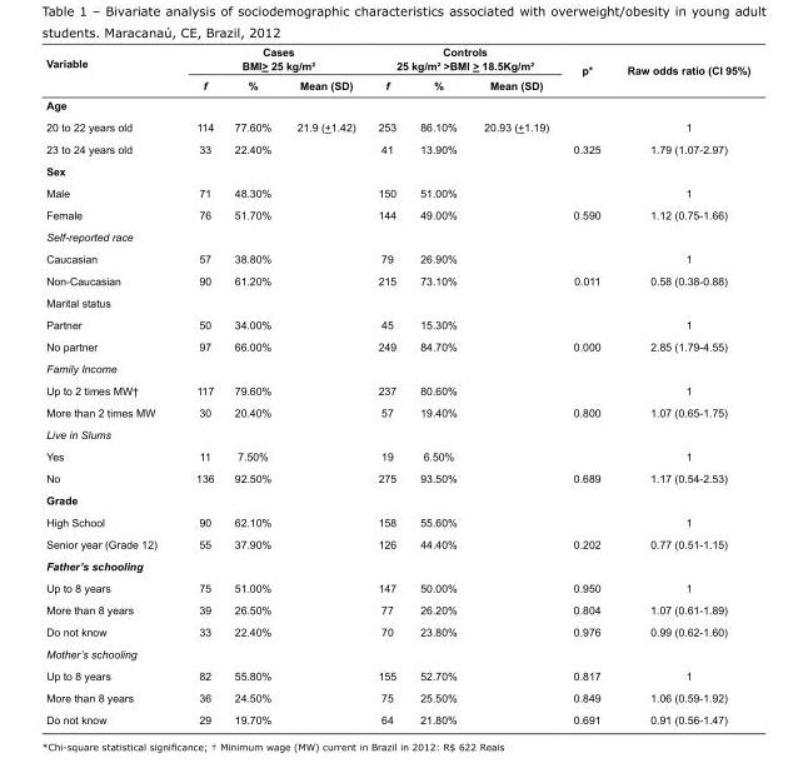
<table><thead><tr><td rowspan="2">Variable</td><td colspan="3">Cases BMI&gt; 25 kg/m²</td><td colspan="3">Controls 25 kg/m² &gt;BMI &gt; 18.5Kg/m²</td><td rowspan="2">p*</td><td rowspan="2">Raw odds ratio (CI 95%)</td></tr><tr><td>f</td><td>%</td><td>Mean (SD)</td><td>f</td><td>%</td><td>Mean (SD)</td></tr></thead><tbody><tr><td colspan="9">Age</td></tr><tr><td>20 to 22 years old</td><td>114</td><td>77.60%</td><td rowspan="2">21.9 (+1.42)</td><td>253</td><td>86.10%</td><td rowspan="2">20.93 (+1.19)</td><td></td><td>1</td></tr><tr><td>23 to 24 years old</td><td>33</td><td>22.40%</td><td>41</td><td>13.90%</td><td>0.325</td><td>1.79 (1.07-2.97)</td></tr><tr><td colspan="9">Sex</td></tr><tr><td>Male</td><td>71</td><td>48.30%</td><td></td><td>150</td><td>51.00%</td><td></td><td></td><td>1</td></tr><tr><td>Female</td><td>76</td><td>51.70%</td><td></td><td>144</td><td>49.00%</td><td></td><td>0.590</td><td>1.12 (0.75-1.66)</td></tr><tr><td colspan="9">Self-reported race</td></tr><tr><td>Caucasian</td><td>57</td><td>38.80%</td><td></td><td>79</td><td>26.90%</td><td></td><td></td><td>1</td></tr><tr><td>Non-Caucasian</td><td>90</td><td>61.20%</td><td></td><td>215</td><td>73.10%</td><td></td><td>0.011</td><td>0.58 (0.38-0.88)</td></tr><tr><td colspan="9">Marital status</td></tr><tr><td>Partner</td><td>50</td><td>34.00%</td><td></td><td>45</td><td>15.30%</td><td></td><td></td><td>1</td></tr><tr><td>No partner</td><td>97</td><td>66.00%</td><td></td><td>249</td><td>84.70%</td><td></td><td>0.000</td><td>2.85 (1.79-4.55)</td></tr><tr><td colspan="9">Family Income</td></tr><tr><td>Up to 2 times MW†</td><td>117</td><td>79.60%</td><td></td><td>237</td><td>80.60%</td><td></td><td></td><td>1</td></tr><tr><td>More than 2 times MW</td><td>30</td><td>20.40%</td><td></td><td>57</td><td>19.40%</td><td></td><td>0.800</td><td>1.07 (0.65-1.75)</td></tr><tr><td colspan="9">Live in Slums</td></tr><tr><td>Yes</td><td>11</td><td>7.50%</td><td></td><td>19</td><td>6.50%</td><td></td><td></td><td>1</td></tr><tr><td>No</td><td>136</td><td>92.50%</td><td></td><td>275</td><td>93.50%</td><td></td><td>0.689</td><td>1.17 (0.54-2.53)</td></tr><tr><td colspan="9">Grade</td></tr><tr><td>High School</td><td>90</td><td>62.10%</td><td></td><td>158</td><td>55.60%</td><td></td><td></td><td>1</td></tr><tr><td>Senior year (Grade 12)</td><td>55</td><td>37.90%</td><td></td><td>126</td><td>44.40%</td><td></td><td>0.202</td><td>0.77 (0.51-1.15)</td></tr><tr><td colspan="9">Father’s schooling</td></tr><tr><td>Up to 8 years</td><td>75</td><td>51.00%</td><td></td><td>147</td><td>50.00%</td><td></td><td>0.950</td><td>1</td></tr><tr><td>More than 8 years</td><td>39</td><td>26.50%</td><td></td><td>77</td><td>26.20%</td><td></td><td>0.804</td><td>1.07 (0.61-1.89)</td></tr><tr><td>Do not know</td><td>33</td><td>22.40%</td><td></td><td>70</td><td>23.80%</td><td></td><td>0.976</td><td>0.99 (0.62-1.60)</td></tr><tr><td colspan="9">Mother’s schooling</td></tr><tr><td>Up to 8 years</td><td>82</td><td>55.80%</td><td></td><td>155</td><td>52.70%</td><td></td><td>0.817</td><td>1</td></tr><tr><td>More than 8 years</td><td>36</td><td>24.50%</td><td></td><td>75</td><td>25.50%</td><td></td><td>0.849</td><td>1.06 (0.59-1.92)</td></tr><tr><td>Do not know</td><td>29</td><td>19.70%</td><td></td><td>64</td><td>21.80%</td><td></td><td>0.691</td><td>0.91 (0.56-1.47)</td></tr></tbody></table>